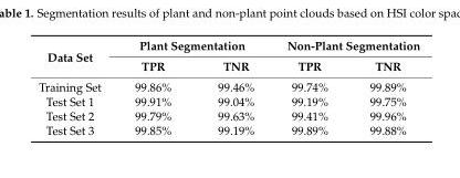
<table><thead><tr><td rowspan="2">Data Set</td><td colspan="2">Plant Segmentation</td><td colspan="2">Non-Plant Segmentation</td></tr><tr><td>TPR</td><td>TNR</td><td>TPR</td><td>TNR</td></tr></thead><tbody><tr><td>Training Set</td><td>99.86%</td><td>99.46%</td><td>99.74%</td><td>99.89%</td></tr><tr><td>Test Set 1</td><td>99.91%</td><td>99.04%</td><td>99.19%</td><td>99.75%</td></tr><tr><td>Test Set 2</td><td>99.79%</td><td>99.63%</td><td>99.41%</td><td>99.96%</td></tr><tr><td>Test Set 3</td><td>99.85%</td><td>99.19%</td><td>99.89%</td><td>99.88%</td></tr></tbody></table>